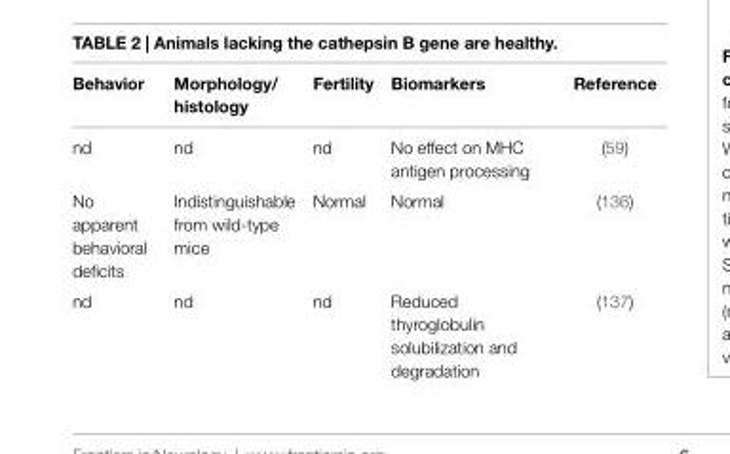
<table><thead><tr><td>Behavior</td><td>Morphology/ histology</td><td>Fertility</td><td>Biomarkers</td><td>Reference</td></tr></thead><tbody><tr><td>nd</td><td>nd</td><td>nd</td><td>No effect on MHC antigen processing</td><td>(59)</td></tr><tr><td>No apparent behavioral deficits</td><td>Indistinguishable from wild-type mice</td><td>Normal</td><td>Normal</td><td>(136)</td></tr><tr><td>nd</td><td>nd</td><td>nd</td><td>Reduced thyroglobulin solubilization and degradation</td><td>(137)</td></tr></tbody></table>